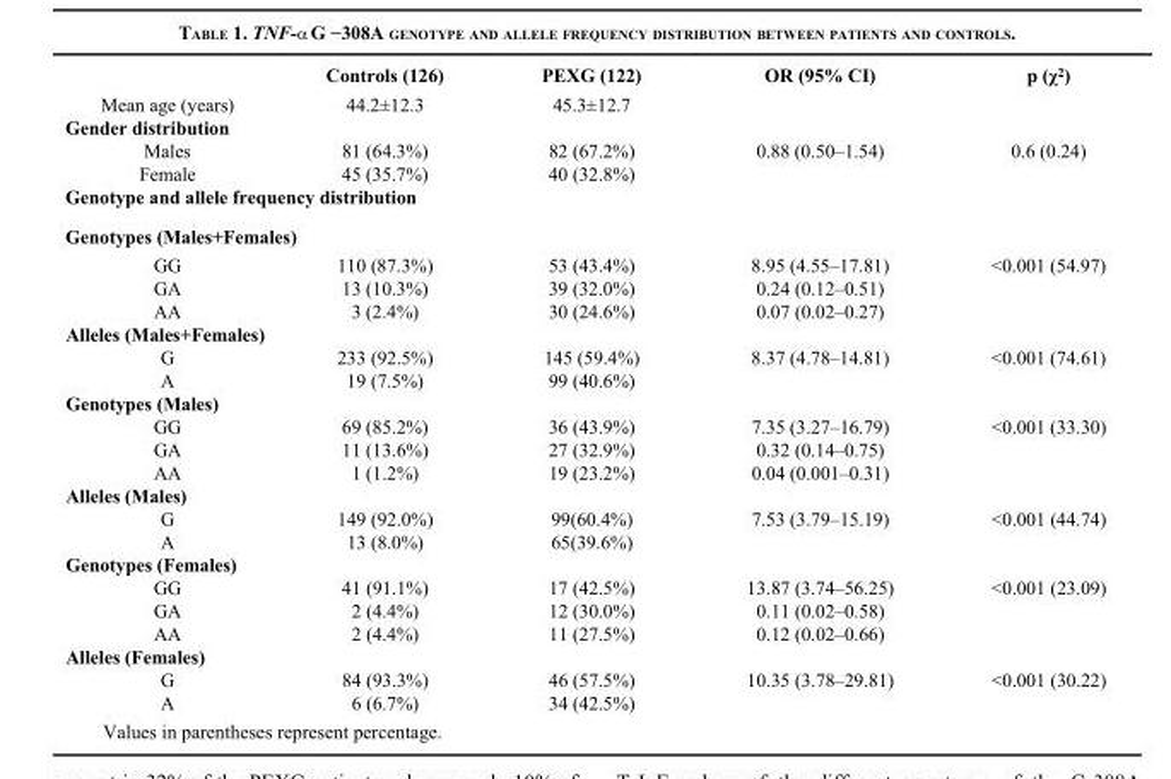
<table><thead><tr><td></td><td>Controls (126)</td><td>PEXG (122)</td><td>OR (95% CI)</td><td>p (χ<sup>2</sup>)</td></tr></thead><tbody><tr><td>Mean age (years)</td><td>44.2±12.3</td><td>45.3±12.7</td><td></td><td></td></tr><tr><td colspan="5">Gender distribution</td></tr><tr><td>Males</td><td>81 (64.3%)</td><td>82 (67.2%)</td><td>0.88 (0.50–1.54)</td><td>0.6 (0.24)</td></tr><tr><td>Female</td><td>45 (35.7%)</td><td>40 (32.8%)</td><td></td><td></td></tr><tr><td colspan="5">Genotype and allele frequency distribution</td></tr><tr><td colspan="5">Genotypes (Males+Females)</td></tr><tr><td>GG</td><td>110 (87.3%)</td><td>53 (43.4%)</td><td>8.95 (4.55–17.81)</td><td>&lt;0.001 (54.97)</td></tr><tr><td>GA</td><td>13 (10.3%)</td><td>39 (32.0%)</td><td>0.24 (0.12–0.51)</td><td></td></tr><tr><td>AA</td><td>3 (2.4%)</td><td>30 (24.6%)</td><td>0.07 (0.02–0.27)</td><td></td></tr><tr><td colspan="5">Alleles (Males+Females)</td></tr><tr><td>G</td><td>233 (92.5%)</td><td>145 (59.4%)</td><td>8.37 (4.78–14.81)</td><td>&lt;0.001 (74.61)</td></tr><tr><td>A</td><td>19 (7.5%)</td><td>99 (40.6%)</td><td></td><td></td></tr><tr><td colspan="5">Genotypes (Males)</td></tr><tr><td>GG</td><td>69 (85.2%)</td><td>36 (43.9%)</td><td>7.35 (3.27–16.79)</td><td>&lt;0.001 (33.30)</td></tr><tr><td>GA</td><td>11 (13.6%)</td><td>27 (32.9%)</td><td>0.32 (0.14–0.75)</td><td></td></tr><tr><td>AA</td><td>1 (1.2%)</td><td>19 (23.2%)</td><td>0.04 (0.001–0.31)</td><td></td></tr><tr><td colspan="5">Alleles (Males)</td></tr><tr><td>G</td><td>149 (92.0%)</td><td>99(60.4%)</td><td>7.53 (3.79–15.19)</td><td>&lt;0.001 (44.74)</td></tr><tr><td>A</td><td>13 (8.0%)</td><td>65(39.6%)</td><td></td><td></td></tr><tr><td colspan="5">Genotypes (Females)</td></tr><tr><td>GG</td><td>41 (91.1%)</td><td>17 (42.5%)</td><td>13.87 (3.74–56.25)</td><td>&lt;0.001 (23.09)</td></tr><tr><td>GA</td><td>2 (4.4%)</td><td>12 (30.0%)</td><td>0.11 (0.02–0.58)</td><td></td></tr><tr><td>AA</td><td>2 (4.4%)</td><td>11 (27.5%)</td><td>0.12 (0.02–0.66)</td><td></td></tr><tr><td colspan="5">Alleles (Females)</td></tr><tr><td>G</td><td>84 (93.3%)</td><td>46 (57.5%)</td><td>10.35 (3.78–29.81)</td><td>&lt;0.001 (30.22)</td></tr><tr><td>A</td><td>6 (6.7%)</td><td>34 (42.5%)</td><td></td><td></td></tr></tbody></table>